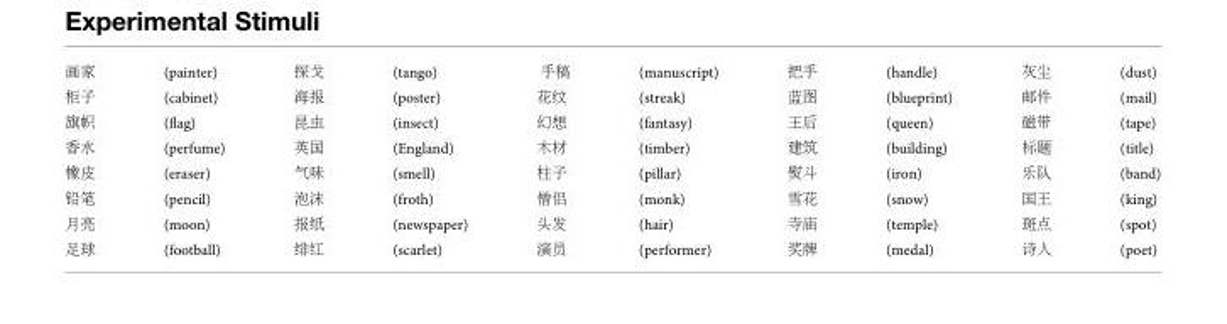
<table><tbody><tr><td>画家</td><td>(painter)</td><td>探戈</td><td>(tango)</td><td>手稿</td><td>(manuscript)</td><td>把手</td><td>(handle)</td><td>灰尘</td><td>(dust)</td></tr><tr><td>柜子</td><td>(cabinet)</td><td>海报</td><td>(poster)</td><td>花纹</td><td>(streak)</td><td>蓝图</td><td>(blueprint)</td><td>邮件</td><td>(mail)</td></tr><tr><td>旗帜</td><td>(flag)</td><td>昆虫</td><td>(insect)</td><td>幻想</td><td>(fantasy)</td><td>王后</td><td>(queen)</td><td>磁带</td><td>(tape)</td></tr><tr><td>香水</td><td>(perfume)</td><td>英国</td><td>(England)</td><td>木材</td><td>(timber)</td><td>建筑</td><td>(building)</td><td>标题</td><td>(title)</td></tr><tr><td>橡皮</td><td>(eraser)</td><td>气味</td><td>(smell)</td><td>柱子</td><td>(pillar)</td><td>熨斗</td><td>(iron)</td><td>乐队</td><td>(band)</td></tr><tr><td>铅笔</td><td>(pencil)</td><td>泡沫</td><td>(froth)</td><td>僧侣</td><td>(monk)</td><td>雪花</td><td>(snow)</td><td>国王</td><td>(king)</td></tr><tr><td>月亮</td><td>(moon)</td><td>报纸</td><td>(newspaper)</td><td>头发</td><td>(hair)</td><td>寺庙</td><td>(temple)</td><td>斑点</td><td>(spot)</td></tr><tr><td>足球</td><td>(football)</td><td>绯红</td><td>(scarlet)</td><td>演员</td><td>(performer)</td><td>奖牌</td><td>(medal)</td><td>诗人</td><td>(poet)</td></tr></tbody></table>